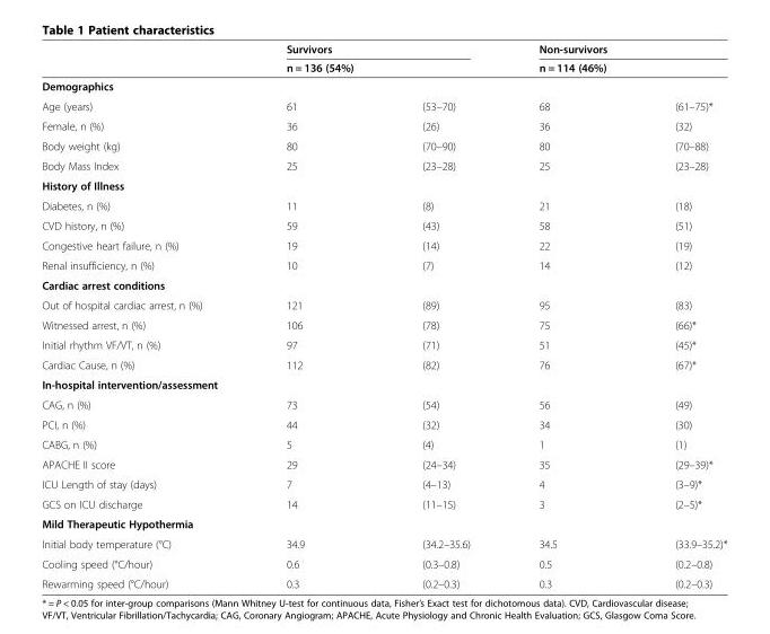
<table><thead><tr><td rowspan="2"></td><td colspan="2">Survivors</td><td colspan="2">Non-survivors</td></tr><tr><td>n = 136 (54%)</td><td></td><td>n = 114 (46%)</td><td></td></tr></thead><tbody><tr><td colspan="5">Demographics</td></tr><tr><td>Age (years)</td><td>61</td><td>(53–70)</td><td>68</td><td>(61–75)*</td></tr><tr><td>Female, n (%)</td><td>36</td><td>(26)</td><td>36</td><td>(32)</td></tr><tr><td>Body weight (kg)</td><td>80</td><td>(70–90)</td><td>80</td><td>(70–88)</td></tr><tr><td>Body Mass Index</td><td>25</td><td>(23–28)</td><td>25</td><td>(23–28)</td></tr><tr><td colspan="5">History of Illness</td></tr><tr><td>Diabetes, n (%)</td><td>11</td><td>(8)</td><td>21</td><td>(18)</td></tr><tr><td>CVD history, n (%)</td><td>59</td><td>(43)</td><td>58</td><td>(51)</td></tr><tr><td>Congestive heart failure, n (%)</td><td>19</td><td>(14)</td><td>22</td><td>(19)</td></tr><tr><td>Renal insufficiency, n (%)</td><td>10</td><td>(7)</td><td>14</td><td>(12)</td></tr><tr><td colspan="5">Cardiac arrest conditions</td></tr><tr><td>Out of hospital cardiac arrest, n (%)</td><td>121</td><td>(89)</td><td>95</td><td>(83)</td></tr><tr><td>Witnessed arrest, n (%)</td><td>106</td><td>(78)</td><td>75</td><td>(66)*</td></tr><tr><td>Initial rhythm VF/VT, n (%)</td><td>97</td><td>(71)</td><td>51</td><td>(45)*</td></tr><tr><td>Cardiac Cause, n (%)</td><td>112</td><td>(82)</td><td>76</td><td>(67)*</td></tr><tr><td colspan="5">In-hospital intervention/assessment</td></tr><tr><td>CAG, n (%)</td><td>73</td><td>(54)</td><td>56</td><td>(49)</td></tr><tr><td>PCI, n (%)</td><td>44</td><td>(32)</td><td>34</td><td>(30)</td></tr><tr><td>CABG, n (%)</td><td>5</td><td>(4)</td><td>1</td><td>(1)</td></tr><tr><td>APACHE II score</td><td>29</td><td>(24–34)</td><td>35</td><td>(29–39)*</td></tr><tr><td>ICU Length of stay (days)</td><td>7</td><td>(4–13)</td><td>4</td><td>(3–9)*</td></tr><tr><td>GCS on ICU discharge</td><td>14</td><td>(11–15)</td><td>3</td><td>(2–5)*</td></tr><tr><td colspan="5">Mild Therapeutic Hypothermia</td></tr><tr><td>Initial body temperature (°C)</td><td>34.9</td><td>(34.2–35.6)</td><td>34.5</td><td>(33.9–35.2)*</td></tr><tr><td>Cooling speed (°C/hour)</td><td>0.6</td><td>(0.3–0.8)</td><td>0.5</td><td>(0.2–0.8)</td></tr><tr><td>Rewarming speed (°C/hour)</td><td>0.3</td><td>(0.2–0.3)</td><td>0.3</td><td>(0.2–0.3)</td></tr></tbody></table>